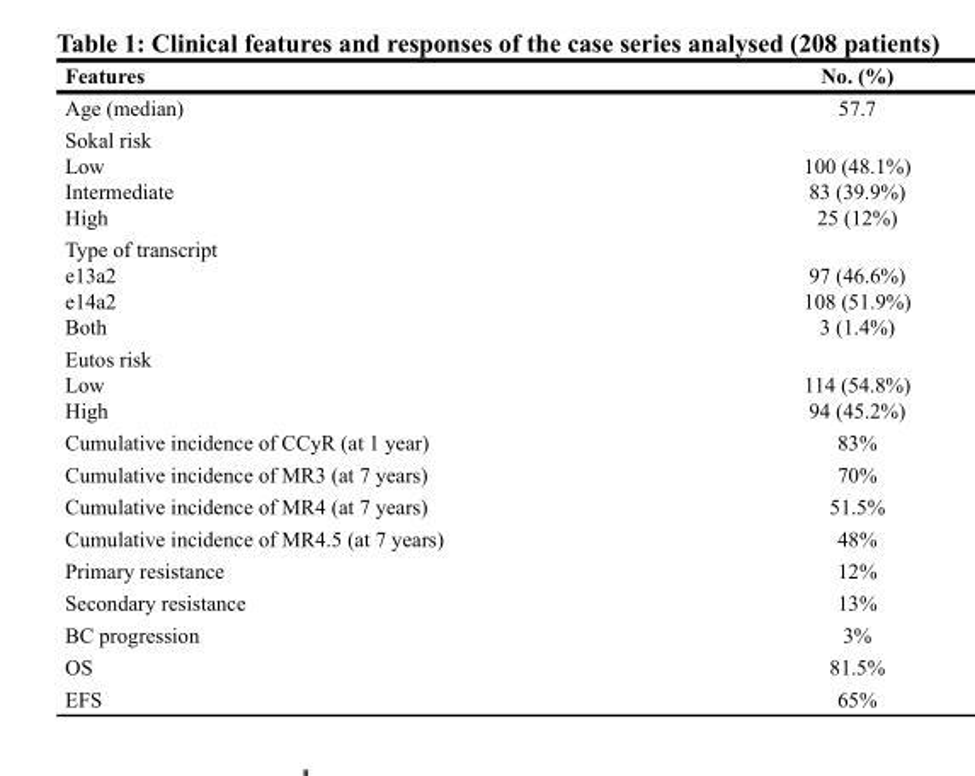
<table><thead><tr><td>Features</td><td>No. (%)</td></tr></thead><tbody><tr><td>Age (median)</td><td>57.7</td></tr><tr><td>Sokal risk Low Intermediate High</td><td>100 (48.1%) 83 (39.9%) 25 (12%)</td></tr><tr><td>Type of transcript e13a2 e14a2 Both</td><td>97 (46.6%) 108 (51.9%) 3 (1.4%)</td></tr><tr><td>Eutos risk Low High</td><td>114 (54.8%) 94 (45.2%)</td></tr><tr><td>Cumulative incidence of CCyR (at 1 year)</td><td>83%</td></tr><tr><td>Cumulative incidence of MR3 (at 7 years)</td><td>70%</td></tr><tr><td>Cumulative incidence of MR4 (at 7 years)</td><td>51.5%</td></tr><tr><td>Cumulative incidence of MR4.5 (at 7 years)</td><td>48%</td></tr><tr><td>Primary resistance</td><td>12%</td></tr><tr><td>Secondary resistance</td><td>13%</td></tr><tr><td>BC progression</td><td>3%</td></tr><tr><td>OS</td><td>81.5%</td></tr><tr><td>EFS</td><td>65%</td></tr></tbody></table>